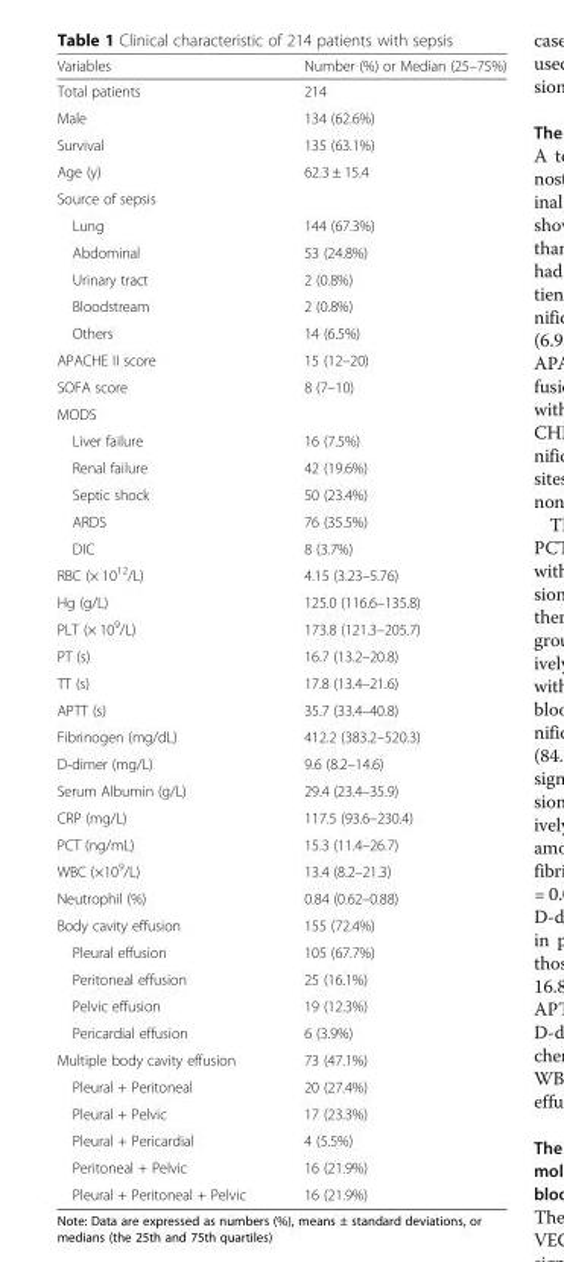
<table><thead><tr><td>Variables</td><td>Number (%) or Median (25–75%)</td></tr></thead><tbody><tr><td>Total patients</td><td>214</td></tr><tr><td>Male</td><td>134 (62.6%)</td></tr><tr><td>Survival</td><td>135 (63.1%)</td></tr><tr><td>Age (y)</td><td>62.3 ± 15.4</td></tr><tr><td colspan="2">Source of sepsis</td></tr><tr><td>Lung</td><td>144 (67.3%)</td></tr><tr><td>Abdominal</td><td>53 (24.8%)</td></tr><tr><td>Urinary tract</td><td>2 (0.8%)</td></tr><tr><td>Bloodstream</td><td>2 (0.8%)</td></tr><tr><td>Others</td><td>14 (6.5%)</td></tr><tr><td>APACHE II score</td><td>15 (12–20)</td></tr><tr><td>SOFA score</td><td>8 (7–10)</td></tr><tr><td colspan="2">MODS</td></tr><tr><td>Liver failure</td><td>16 (7.5%)</td></tr><tr><td>Renal failure</td><td>42 (19.6%)</td></tr><tr><td>Septic shock</td><td>50 (23.4%)</td></tr><tr><td>ARDS</td><td>76 (35.5%)</td></tr><tr><td>DIC</td><td>8 (3.7%)</td></tr><tr><td>RBC (× 10<sup>12</sup>/L)</td><td>4.15 (3.23–5.76)</td></tr><tr><td>Hg (g/L)</td><td>125.0 (116.6–135.8)</td></tr><tr><td>PLT (× 10<sup>9</sup>/L)</td><td>173.8 (121.3–205.7)</td></tr><tr><td>PT (s)</td><td>16.7 (13.2–20.8)</td></tr><tr><td>TT (s)</td><td>17.8 (13.4–21.6)</td></tr><tr><td>APTT (s)</td><td>35.7 (33.4–40.8)</td></tr><tr><td>Fibrinogen (mg/dL)</td><td>412.2 (383.2–520.3)</td></tr><tr><td>D-dimer (mg/L)</td><td>9.6 (8.2–14.6)</td></tr><tr><td>Serum Albumin (g/L)</td><td>29.4 (23.4–35.9)</td></tr><tr><td>CRP (mg/L)</td><td>117.5 (93.6–230.4)</td></tr><tr><td>PCT (ng/mL)</td><td>15.3 (11.4–26.7)</td></tr><tr><td>WBC (×10<sup>9</sup>/L)</td><td>13.4 (8.2–21.3)</td></tr><tr><td>Neutrophil (%)</td><td>0.84 (0.62–0.88)</td></tr><tr><td>Body cavity effusion</td><td>155 (72.4%)</td></tr><tr><td>Pleural effusion</td><td>105 (67.7%)</td></tr><tr><td>Peritoneal effusion</td><td>25 (16.1%)</td></tr><tr><td>Pelvic effusion</td><td>19 (12.3%)</td></tr><tr><td>Pericardial effusion</td><td>6 (3.9%)</td></tr><tr><td>Multiple body cavity effusion</td><td>73 (47.1%)</td></tr><tr><td>Pleural + Peritoneal</td><td>20 (27.4%)</td></tr><tr><td>Pleural + Pelvic</td><td>17 (23.3%)</td></tr><tr><td>Pleural + Pericardial</td><td>4 (5.5%)</td></tr><tr><td>Peritoneal + Pelvic</td><td>16 (21.9%)</td></tr><tr><td>Pleural + Peritoneal + Pelvic</td><td>16 (21.9%)</td></tr></tbody></table>